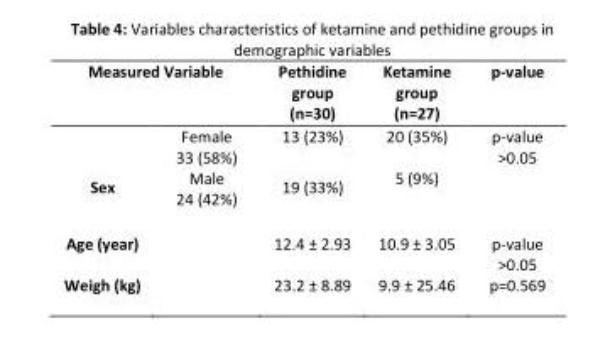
<table><thead><tr><td colspan="2">Measured Variable</td><td rowspan="2">Pethidine group (n=30) 13 (23%) 19 (33%)</td><td rowspan="2">Ketamine group (n=27) 20 (35%) 5 (9%)</td><td rowspan="2">p-value p-value &gt;0.05</td></tr><tr><td>Sex</td><td>Female 33 (58%) Male 24 (42%)</td></tr></thead><tbody><tr><td>Age (year)</td><td></td><td>12.4 ± 2.93</td><td>10.9 ± 3.05</td><td>p-value &gt;0.05</td></tr><tr><td>Weigh (kg)</td><td></td><td>23.2 ± 8.89</td><td>9.9 ± 25.46</td><td>p=0.569</td></tr></tbody></table>